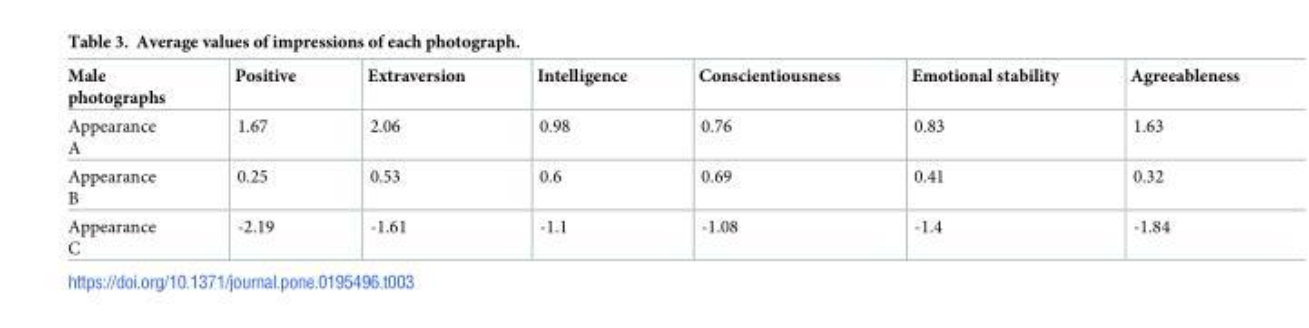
<table><thead><tr><td>Male photographs</td><td>Positive</td><td>Extraversion</td><td>Intelligence</td><td>Conscientiousness</td><td>Emotional stability</td><td>Agreeableness</td></tr></thead><tbody><tr><td>Appearance A</td><td>1.67</td><td>2.06</td><td>0.98</td><td>0.76</td><td>0.83</td><td>1.63</td></tr><tr><td>Appearance B</td><td>0.25</td><td>0.53</td><td>0.6</td><td>0.69</td><td>0.41</td><td>0.32</td></tr><tr><td>Appearance C</td><td>-2.19</td><td>-1.61</td><td>-1.1</td><td>-1.08</td><td>-1.4</td><td>-1.84</td></tr></tbody></table>